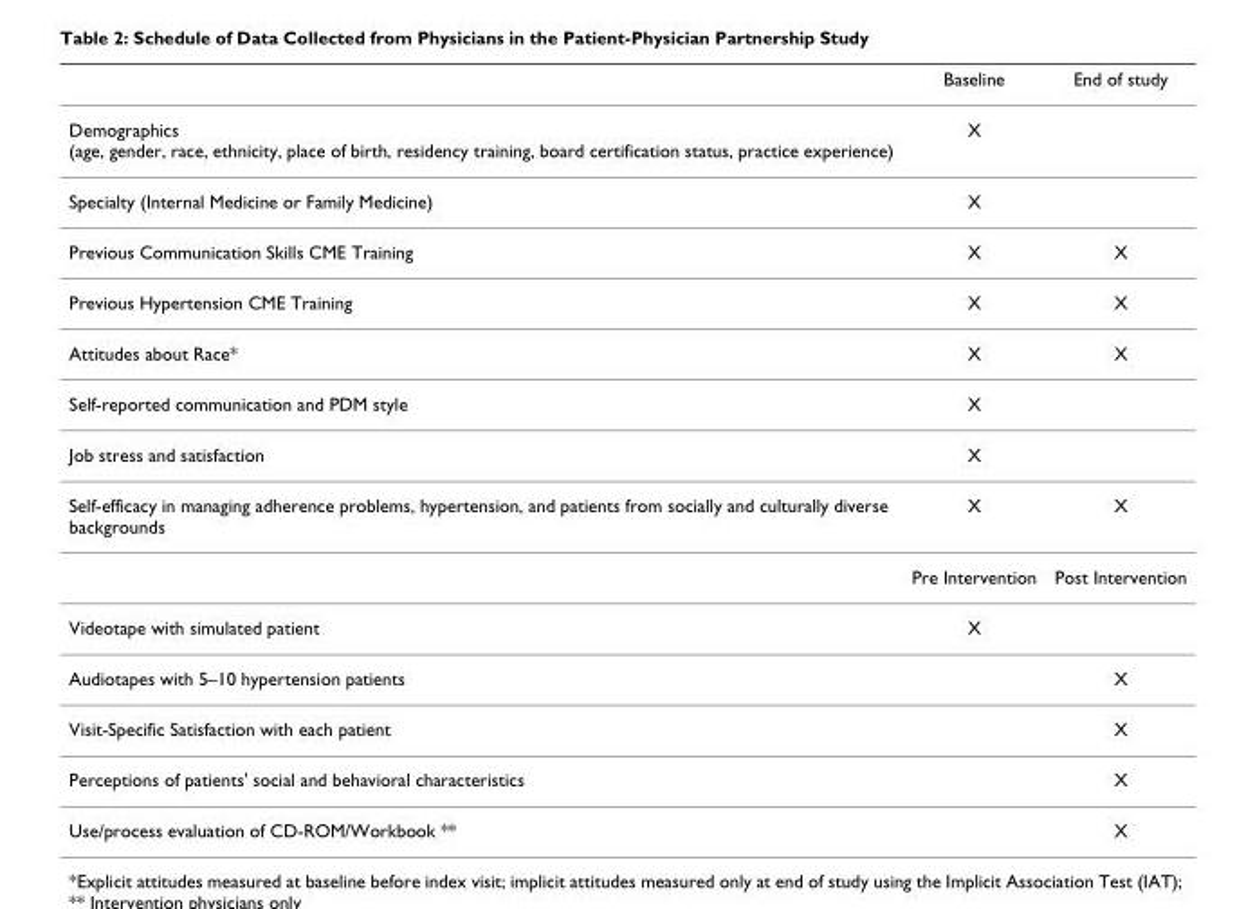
<table><thead><tr><td></td><td>Baseline</td><td>End of study</td></tr></thead><tbody><tr><td>Demographics (age, gender, race, ethnicity, place of birth, residency training, board certification status, practice experience)</td><td>X</td><td></td></tr><tr><td>Specialty (Internal Medicine or Family Medicine)</td><td>X</td><td></td></tr><tr><td>Previous Communication Skills CME Training</td><td>X</td><td>X</td></tr><tr><td>Previous Hypertension CME Training</td><td>X</td><td>X</td></tr><tr><td>Attitudes about Race*</td><td>X</td><td>X</td></tr><tr><td>Self-reported communication and PDM style</td><td>X</td><td></td></tr><tr><td>Job stress and satisfaction</td><td>X</td><td></td></tr><tr><td rowspan="2">Self-efficacy in managing adherence problems, hypertension, and patients from socially and culturally diverse backgrounds</td><td>X</td><td>X</td></tr><tr><td>Pre Intervention</td><td>Post Intervention</td></tr><tr><td>Videotape with simulated patient</td><td>X</td><td></td></tr><tr><td>Audiotapes with 5–10 hypertension patients</td><td></td><td>X</td></tr><tr><td>Visit-Specific Satisfaction with each patient</td><td></td><td>X</td></tr><tr><td>Perceptions of patients&#x27; social and behavioral characteristics</td><td></td><td>X</td></tr><tr><td>Use/process evaluation of CD-ROM/Workbook **</td><td></td><td>X</td></tr></tbody></table>